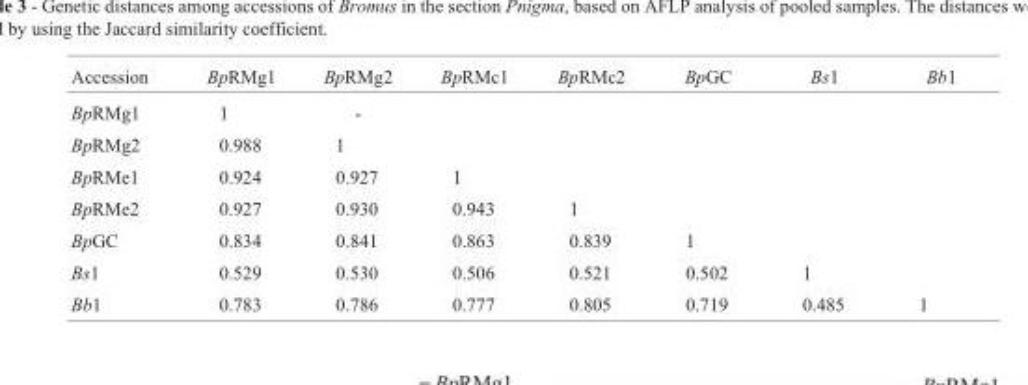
<table><thead><tr><td>Accession</td><td>BpRMg1</td><td>BpRMg2</td><td>BpRMc1</td><td>BpRMc2</td><td>BpGC</td><td>Bs1</td><td>Bb1</td></tr></thead><tbody><tr><td>BpRMg1</td><td>1</td><td>-</td><td></td><td></td><td></td><td></td><td></td></tr><tr><td>BpRMg2</td><td>0.988</td><td>1</td><td></td><td></td><td></td><td></td><td></td></tr><tr><td>BpRMe1</td><td>0.924</td><td>0.927</td><td>1</td><td></td><td></td><td></td><td></td></tr><tr><td>BpRMe2</td><td>0.927</td><td>0.930</td><td>0.943</td><td>1</td><td></td><td></td><td></td></tr><tr><td>BpGC</td><td>0.834</td><td>0.841</td><td>0.863</td><td>0.839</td><td>1</td><td></td><td></td></tr><tr><td>Bs1</td><td>0.529</td><td>0.530</td><td>0.506</td><td>0.521</td><td>0.502</td><td>1</td><td></td></tr><tr><td>Bb1</td><td>0.783</td><td>0.786</td><td>0.777</td><td>0.805</td><td>0.719</td><td>0.485</td><td>1</td></tr></tbody></table>